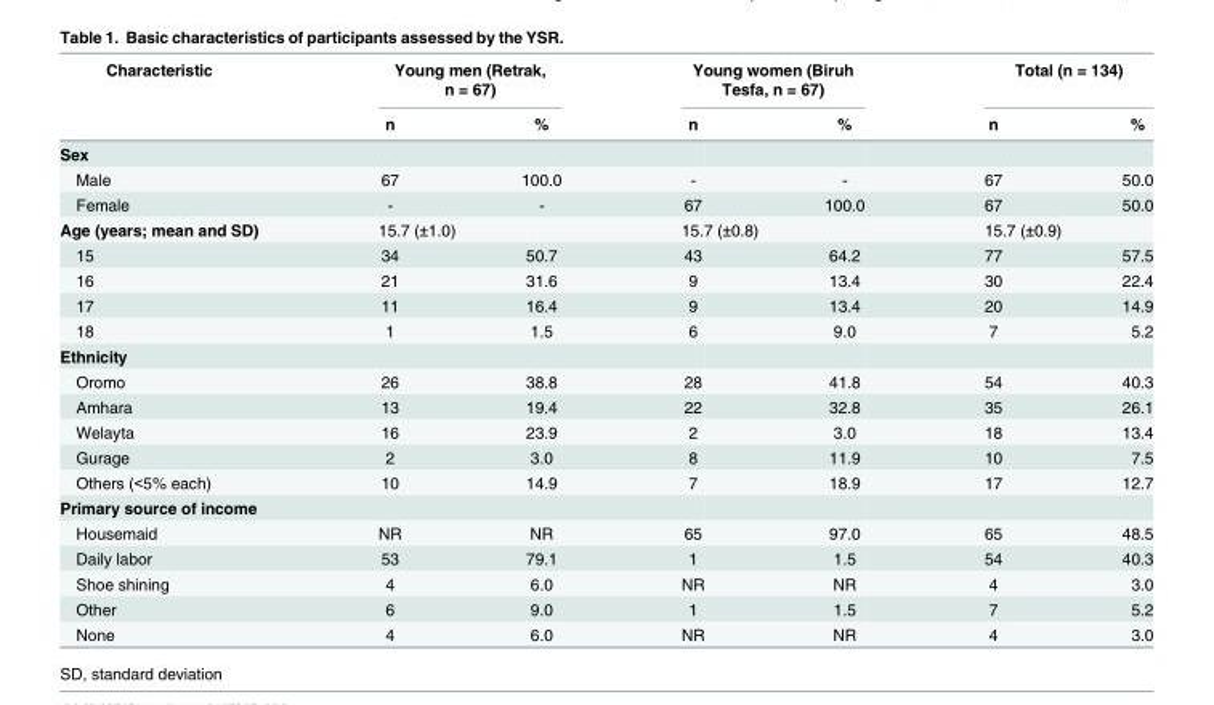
<table><thead><tr><td rowspan="2">Characteristic</td><td colspan="2">Young men (Retrak, n = 67)</td><td colspan="2">Young women (Biruh Tesfa, n = 67)</td><td colspan="2">Total (n = 134)</td></tr><tr><td>n</td><td>%</td><td>n</td><td>%</td><td>n</td><td>%</td></tr></thead><tbody><tr><td colspan="7">Sex</td></tr><tr><td>Male</td><td>67</td><td>100.0</td><td>-</td><td>-</td><td>67</td><td>50.0</td></tr><tr><td>Female</td><td>-</td><td>-</td><td>67</td><td>100.0</td><td>67</td><td>50.0</td></tr><tr><td>Age (years; mean and SD)</td><td colspan="2">15.7 (±1.0)</td><td colspan="2">15.7 (±0.8)</td><td colspan="2">15.7 (±0.9)</td></tr><tr><td>15</td><td>34</td><td>50.7</td><td>43</td><td>64.2</td><td>77</td><td>57.5</td></tr><tr><td>16</td><td>21</td><td>31.6</td><td>9</td><td>13.4</td><td>30</td><td>22.4</td></tr><tr><td>17</td><td>11</td><td>16.4</td><td>9</td><td>13.4</td><td>20</td><td>14.9</td></tr><tr><td>18</td><td>1</td><td>1.5</td><td>6</td><td>9.0</td><td>7</td><td>5.2</td></tr><tr><td colspan="7">Ethnicity</td></tr><tr><td>Oromo</td><td>26</td><td>38.8</td><td>28</td><td>41.8</td><td>54</td><td>40.3</td></tr><tr><td>Amhara</td><td>13</td><td>19.4</td><td>22</td><td>32.8</td><td>35</td><td>26.1</td></tr><tr><td>Welayta</td><td>16</td><td>23.9</td><td>2</td><td>3.0</td><td>18</td><td>13.4</td></tr><tr><td>Gurage</td><td>2</td><td>3.0</td><td>8</td><td>11.9</td><td>10</td><td>7.5</td></tr><tr><td>Others (&lt;5% each)</td><td>10</td><td>14.9</td><td>7</td><td>18.9</td><td>17</td><td>12.7</td></tr><tr><td colspan="7">Primary source of income</td></tr><tr><td>Housemaid</td><td>NR</td><td>NR</td><td>65</td><td>97.0</td><td>65</td><td>48.5</td></tr><tr><td>Daily labor</td><td>53</td><td>79.1</td><td>1</td><td>1.5</td><td>54</td><td>40.3</td></tr><tr><td>Shoe shining</td><td>4</td><td>6.0</td><td>NR</td><td>NR</td><td>4</td><td>3.0</td></tr><tr><td>Other</td><td>6</td><td>9.0</td><td>1</td><td>1.5</td><td>7</td><td>5.2</td></tr><tr><td>None</td><td>4</td><td>6.0</td><td>NR</td><td>NR</td><td>4</td><td>3.0</td></tr></tbody></table>